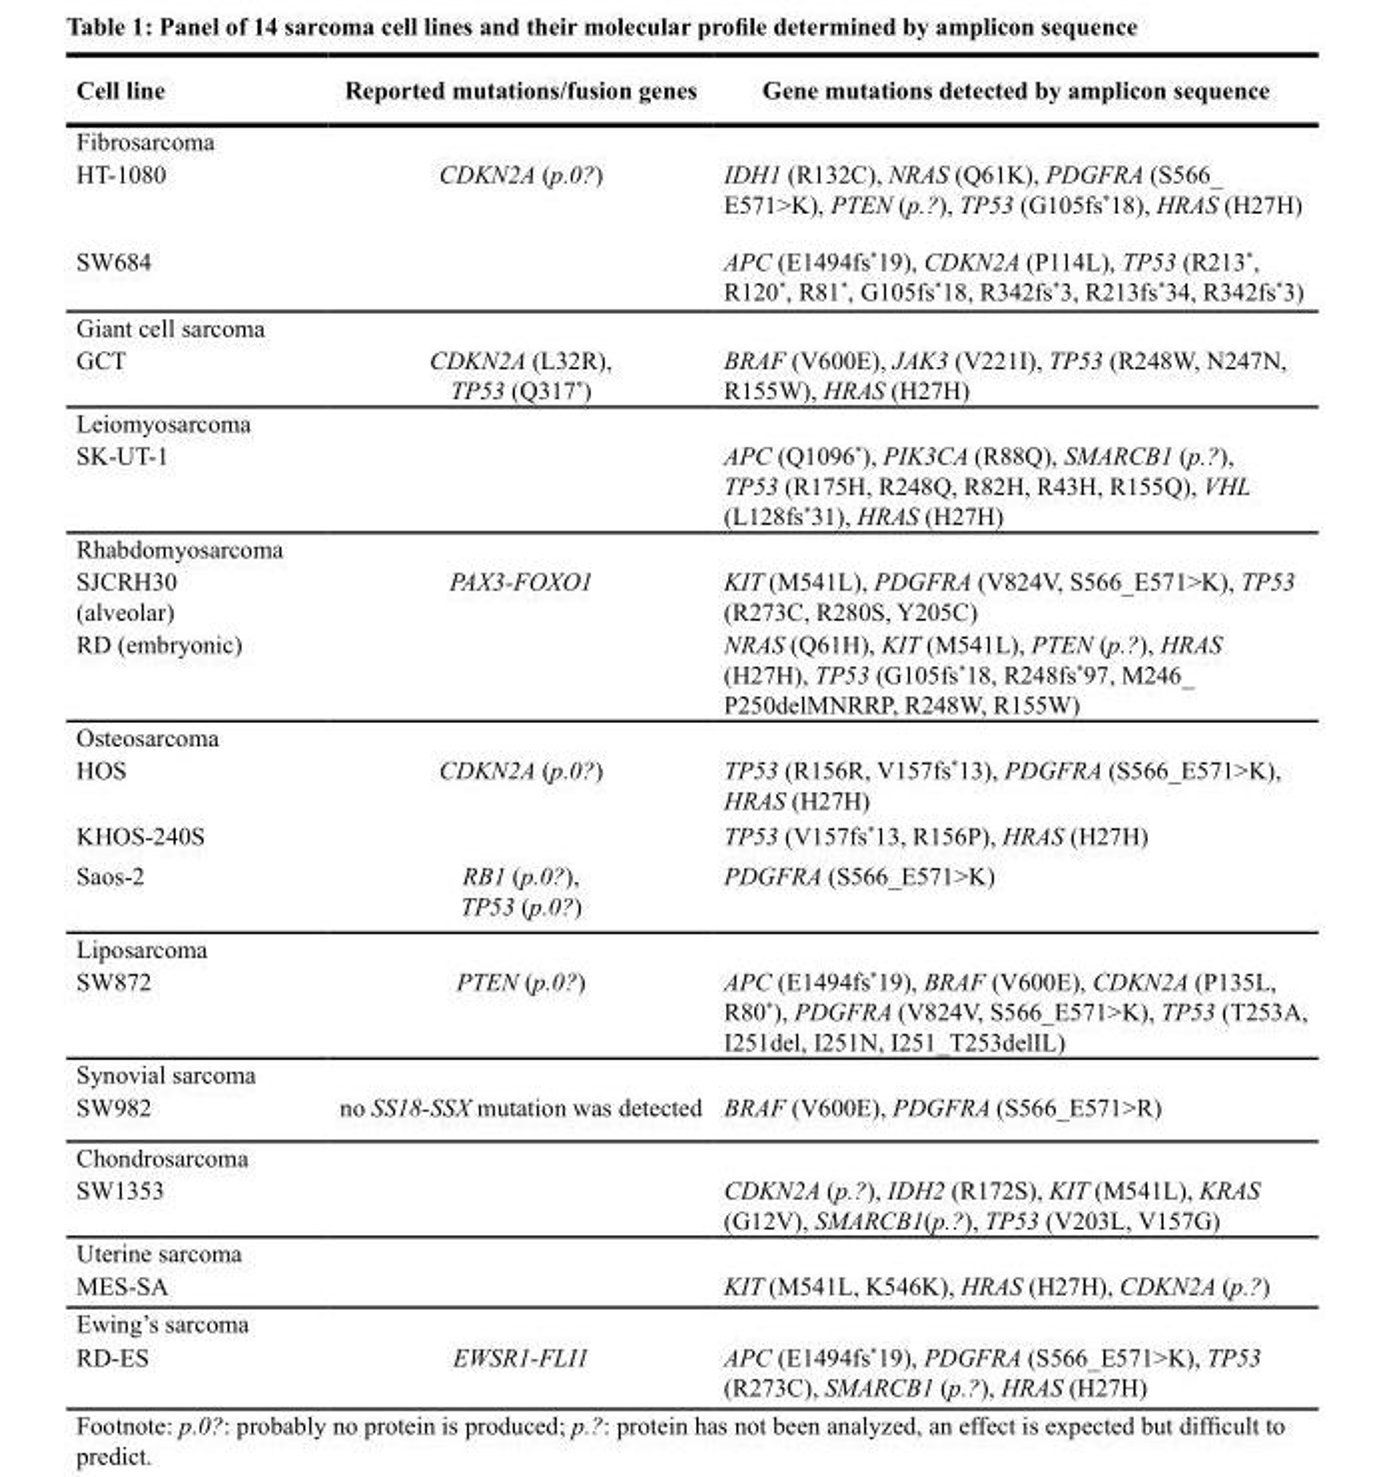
<table><thead><tr><td>Cell line</td><td>Reported mutations/fusion genes</td><td>Gene mutations detected by amplicon sequence</td></tr></thead><tbody><tr><td colspan="3">Fibrosarcoma</td></tr><tr><td>HT-1080</td><td>CDKN2A (p.0?)</td><td>IDH1 (R132C), NRAS (Q61K), PDGFRA (S566_ E571&gt;K), PTEN (p.?), TP53 (G105fs*18), HRAS (H27H)</td></tr><tr><td>SW684</td><td></td><td>APC (E1494fs*19), CDKN2A (P114L), TP53 (R213*, R120*, R81*, G105fs*18, R342fs*3, R213fs*34, R342fs*3)</td></tr><tr><td colspan="3">Giant cell sarcoma</td></tr><tr><td>GCT</td><td>CDKN2A (L32R), TP53 (Q317*)</td><td>BRAF (V600E), JAK3 (V221I), TP53 (R248W, N247N, R155W), HRAS (H27H)</td></tr><tr><td colspan="3">Leiomyosarcoma</td></tr><tr><td>SK-UT-1</td><td></td><td>APC (Q1096*), PIK3CA (R88Q), SMARCB1 (p.?), TP53 (R175H, R248Q, R82H, R43H, R155Q), VHL (L128fs*31), HRAS (H27H)</td></tr><tr><td colspan="3">Rhabdomyosarcoma</td></tr><tr><td>SJCRH30 (alveolar)</td><td>PAX3-FOXO1</td><td>KIT (M541L), PDGFRA (V824V, S566_E571&gt;K), TP53 (R273C, R280S, Y205C)</td></tr><tr><td>RD (embryonic)</td><td></td><td>NRAS (Q61H), KIT (M541L), PTEN (p.?), HRAS (H27H), TP53 (G105fs*18, R248fs*97, M246_ P250delMNRRP, R248W, R155W)</td></tr><tr><td colspan="3">Osteosarcoma</td></tr><tr><td>HOS</td><td>CDKN2A (p.0?)</td><td>TP53 (R156R, V157fs*13), PDGFRA (S566_E571&gt;K), HRAS (H27H)</td></tr><tr><td>KHOS-240S</td><td></td><td>TP53 (V157fs*13, R156P), HRAS (H27H)</td></tr><tr><td>Saos-2</td><td>RB1 (p.0?), TP53 (p.0?)</td><td>PDGFRA (S566_E571&gt;K)</td></tr><tr><td colspan="3">Liposarcoma</td></tr><tr><td>SW872</td><td>PTEN (p.0?)</td><td>APC (E1494fs*19), BRAF (V600E), CDKN2A (P135L, R80*), PDGFRA (V824V, S566_E571&gt;K), TP53 (T253A, I251del, I251N, I251_T253delIL)</td></tr><tr><td colspan="3">Synovial sarcoma</td></tr><tr><td>SW982</td><td>no SS18-SSX mutation was detected</td><td>BRAF (V600E), PDGFRA (S566_E571&gt;R)</td></tr><tr><td colspan="3">Chondrosarcoma</td></tr><tr><td>SW1353</td><td></td><td>CDKN2A (p.?), IDH2 (R172S), KIT (M541L), KRAS (G12V), SMARCB1(p.?), TP53 (V203L, V157G)</td></tr><tr><td colspan="3">Uterine sarcoma</td></tr><tr><td>MES-SA</td><td></td><td>KIT (M541L, K546K), HRAS (H27H), CDKN2A (p.?)</td></tr><tr><td colspan="3">Ewing’s sarcoma</td></tr><tr><td>RD-ES</td><td>EWSR1-FLI1</td><td>APC (E1494fs*19), PDGFRA (S566_E571&gt;K), TP53 (R273C), SMARCB1 (p.?), HRAS (H27H)</td></tr></tbody></table>